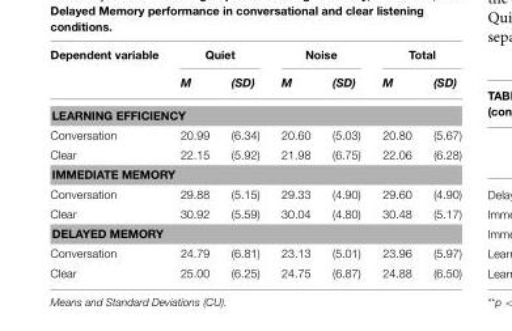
<table><thead><tr><td rowspan="2">Dependent variable</td><td colspan="2">Quiet</td><td colspan="2">Noise</td><td colspan="2">Total</td></tr><tr><td>M</td><td>(SD)</td><td>M</td><td>(SD)</td><td>M</td><td>(SD)</td></tr></thead><tbody><tr><td colspan="7">LEARNING EFFICIENCY</td></tr><tr><td>Conversation</td><td>20.99</td><td>(6.34)</td><td>20.60</td><td>(5.03)</td><td>20.80</td><td>(5.67)</td></tr><tr><td>Clear</td><td>22.15</td><td>(5.92)</td><td>21.98</td><td>(6.75)</td><td>22.06</td><td>(6.28)</td></tr><tr><td colspan="7">IMMEDIATE MEMORY</td></tr><tr><td>Conversation</td><td>29.88</td><td>(5.15)</td><td>29.33</td><td>(4.90)</td><td>29.60</td><td>(4.90)</td></tr><tr><td>Clear</td><td>30.92</td><td>(5.59)</td><td>30.04</td><td>(4.80)</td><td>30.48</td><td>(5.17)</td></tr><tr><td colspan="7">DELAYED MEMORY</td></tr><tr><td>Conversation</td><td>24.79</td><td>(6.81)</td><td>23.13</td><td>(5.01)</td><td>23.96</td><td>(5.97)</td></tr><tr><td>Clear</td><td>25.00</td><td>(6.25)</td><td>24.75</td><td>(6.87)</td><td>24.88</td><td>(6.50)</td></tr></tbody></table>